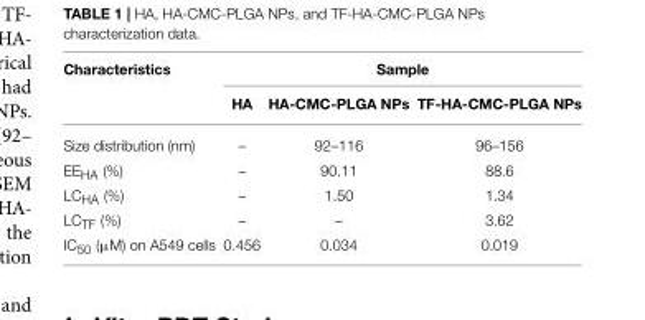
<table><thead><tr><td rowspan="2">Characteristics</td><td colspan="3">Sample</td></tr><tr><td>HA</td><td>HA-CMC-PLGA NPs</td><td>TF-HA-CMC-PLGA NPs</td></tr></thead><tbody><tr><td>Size distribution (nm)</td><td>–</td><td>92–116</td><td>96–156</td></tr><tr><td>EE<sub>HA</sub> (%)</td><td>–</td><td>90.11</td><td>88.6</td></tr><tr><td>LC<sub>HA</sub> (%)</td><td>–</td><td>1.50</td><td>1.34</td></tr><tr><td>LC<sub>TF</sub> (%)</td><td>–</td><td>–</td><td>3.62</td></tr><tr><td>IC<sub>50</sub> (µM) on A549 cells</td><td>0.456</td><td>0.034</td><td>0.019</td></tr></tbody></table>